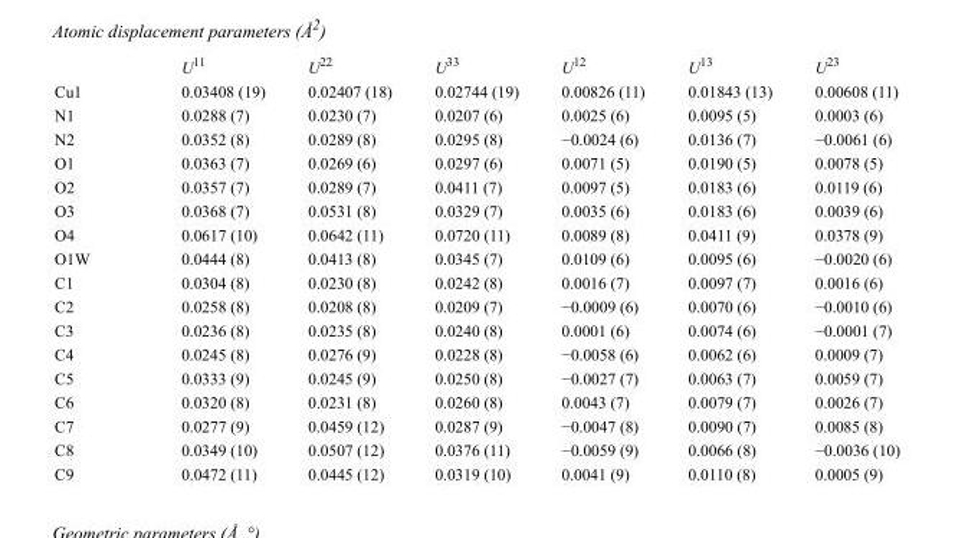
<table><thead><tr><td></td><td>U<sup>11</sup></td><td>U<sup>22</sup></td><td>U<sup>33</sup></td><td>U<sup>12</sup></td><td>U<sup>13</sup></td><td>U<sup>23</sup></td></tr></thead><tbody><tr><td>Cu1</td><td>0.03408 (19)</td><td>0.02407 (18)</td><td>0.02744 (19)</td><td>0.00826 (11)</td><td>0.01843 (13)</td><td>0.00608 (11)</td></tr><tr><td>N1</td><td>0.0288 (7)</td><td>0.0230 (7)</td><td>0.0207 (6)</td><td>0.0025 (6)</td><td>0.0095 (5)</td><td>0.0003 (6)</td></tr><tr><td>N2</td><td>0.0352 (8)</td><td>0.0289 (8)</td><td>0.0295 (8)</td><td>−0.0024 (6)</td><td>0.0136 (7)</td><td>−0.0061 (6)</td></tr><tr><td>O1</td><td>0.0363 (7)</td><td>0.0269 (6)</td><td>0.0297 (6)</td><td>0.0071 (5)</td><td>0.0190 (5)</td><td>0.0078 (5)</td></tr><tr><td>O2</td><td>0.0357 (7)</td><td>0.0289 (7)</td><td>0.0411 (7)</td><td>0.0097 (5)</td><td>0.0183 (6)</td><td>0.0119 (6)</td></tr><tr><td>O3</td><td>0.0368 (7)</td><td>0.0531 (8)</td><td>0.0329 (7)</td><td>0.0035 (6)</td><td>0.0183 (6)</td><td>0.0039 (6)</td></tr><tr><td>O4</td><td>0.0617 (10)</td><td>0.0642 (11)</td><td>0.0720 (11)</td><td>0.0089 (8)</td><td>0.0411 (9)</td><td>0.0378 (9)</td></tr><tr><td>O1W</td><td>0.0444 (8)</td><td>0.0413 (8)</td><td>0.0345 (7)</td><td>0.0109 (6)</td><td>0.0095 (6)</td><td>−0.0020 (6)</td></tr><tr><td>C1</td><td>0.0304 (8)</td><td>0.0230 (8)</td><td>0.0242 (8)</td><td>0.0016 (7)</td><td>0.0097 (7)</td><td>0.0016 (6)</td></tr><tr><td>C2</td><td>0.0258 (8)</td><td>0.0208 (8)</td><td>0.0209 (7)</td><td>−0.0009 (6)</td><td>0.0070 (6)</td><td>−0.0010 (6)</td></tr><tr><td>C3</td><td>0.0236 (8)</td><td>0.0235 (8)</td><td>0.0240 (8)</td><td>0.0001 (6)</td><td>0.0074 (6)</td><td>−0.0001 (7)</td></tr><tr><td>C4</td><td>0.0245 (8)</td><td>0.0276 (9)</td><td>0.0228 (8)</td><td>−0.0058 (6)</td><td>0.0062 (6)</td><td>0.0009 (7)</td></tr><tr><td>C5</td><td>0.0333 (9)</td><td>0.0245 (9)</td><td>0.0250 (8)</td><td>−0.0027 (7)</td><td>0.0063 (7)</td><td>0.0059 (7)</td></tr><tr><td>C6</td><td>0.0320 (8)</td><td>0.0231 (8)</td><td>0.0260 (8)</td><td>0.0043 (7)</td><td>0.0079 (7)</td><td>0.0026 (7)</td></tr><tr><td>C7</td><td>0.0277 (9)</td><td>0.0459 (12)</td><td>0.0287 (9)</td><td>−0.0047 (8)</td><td>0.0090 (7)</td><td>0.0085 (8)</td></tr><tr><td>C8</td><td>0.0349 (10)</td><td>0.0507 (12)</td><td>0.0376 (11)</td><td>−0.0059 (9)</td><td>0.0066 (8)</td><td>−0.0036 (10)</td></tr><tr><td>C9</td><td>0.0472 (11)</td><td>0.0445 (12)</td><td>0.0319 (10)</td><td>0.0041 (9)</td><td>0.0110 (8)</td><td>0.0005 (9)</td></tr></tbody></table>